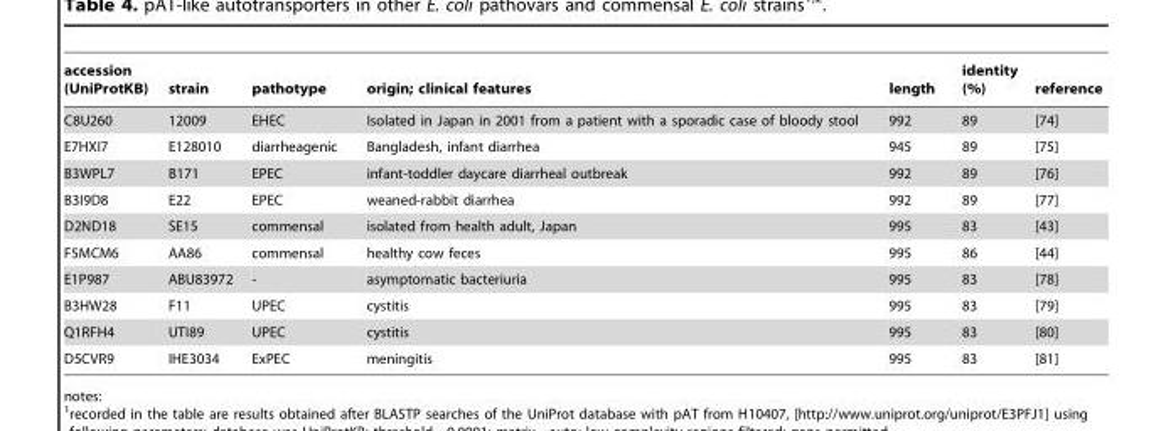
<table><thead><tr><td>accession (UniProtKB)</td><td>strain</td><td>pathotype</td><td>origin; clinical features</td><td>length</td><td>identity (%)</td><td>reference</td></tr></thead><tbody><tr><td>C8U260</td><td>12009</td><td>EHEC</td><td>Isolated in Japan in 2001 from a patient with a sporadic case of bloody stool</td><td>992</td><td>89</td><td>[74]</td></tr><tr><td>E7HXI7</td><td>E128010</td><td>diarrheagenic</td><td>Bangladesh, infant diarrhea</td><td>945</td><td>89</td><td>[75]</td></tr><tr><td>B3WPL7</td><td>B171</td><td>EPEC</td><td>infant-toddler daycare diarrheal outbreak</td><td>992</td><td>89</td><td>[76]</td></tr><tr><td>B3I9D8</td><td>E22</td><td>EPEC</td><td>weaned-rabbit diarrhea</td><td>992</td><td>89</td><td>[77]</td></tr><tr><td>D2ND18</td><td>SE15</td><td>commensal</td><td>isolated from health adult, Japan</td><td>995</td><td>83</td><td>[43]</td></tr><tr><td>F5MCM6</td><td>AA86</td><td>commensal</td><td>healthy cow feces</td><td>995</td><td>86</td><td>[44]</td></tr><tr><td>E1P987</td><td>ABU83972</td><td>-</td><td>asymptomatic bacteriuria</td><td>995</td><td>83</td><td>[78]</td></tr><tr><td>B3HW28</td><td>F11</td><td>UPEC</td><td>cystitis</td><td>995</td><td>83</td><td>[79]</td></tr><tr><td>Q1RFH4</td><td>UTI89</td><td>UPEC</td><td>cystitis</td><td>995</td><td>83</td><td>[80]</td></tr><tr><td>D5CVR9</td><td>IHE3034</td><td>ExPEC</td><td>meningitis</td><td>995</td><td>83</td><td>[81]</td></tr></tbody></table>